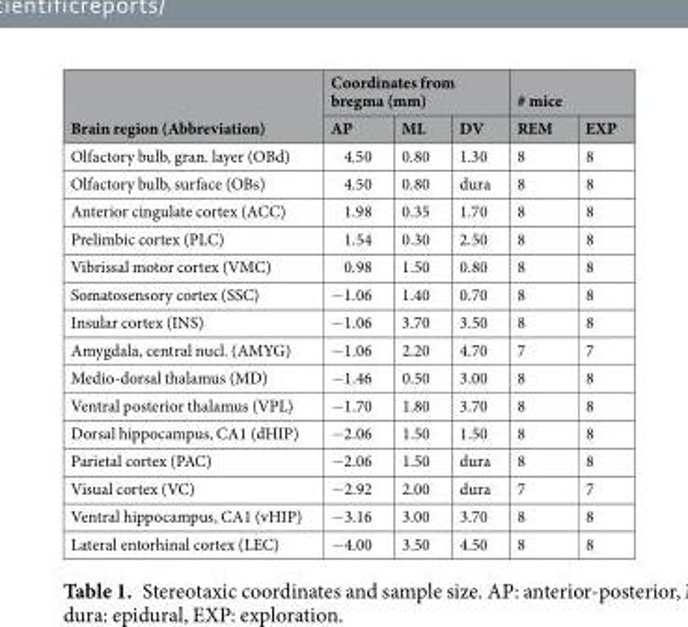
<table><thead><tr><td rowspan="2">Brain region (Abbreviation)</td><td colspan="3">Coordinates from bregma (mm)</td><td colspan="2"># mice</td></tr><tr><td>AP</td><td>ML</td><td>DV</td><td>REM</td><td>EXP</td></tr></thead><tbody><tr><td>Olfactory bulb, gran. layer (OBd)</td><td>4.50</td><td>0.80</td><td>1.30</td><td>8</td><td>8</td></tr><tr><td>Olfactory bulb, surface (OBs)</td><td>4.50</td><td>0.80</td><td>dura</td><td>8</td><td>8</td></tr><tr><td>Anterior cingulate cortex (ACC)</td><td>1.98</td><td>0.35</td><td>1.70</td><td>8</td><td>8</td></tr><tr><td>Prelimbic cortex (PLC)</td><td>1.54</td><td>0.30</td><td>2.50</td><td>8</td><td>8</td></tr><tr><td>Vibrissal motor cortex (VMC)</td><td>0.98</td><td>1.50</td><td>0.80</td><td>8</td><td>8</td></tr><tr><td>Somatosensory cortex (SSC)</td><td>−1.06</td><td>1.40</td><td>0.70</td><td>8</td><td>8</td></tr><tr><td>Insular cortex (INS)</td><td>−1.06</td><td>3.70</td><td>3.50</td><td>8</td><td>8</td></tr><tr><td>Amygdala, central nucl. (AMYG)</td><td>−1.06</td><td>2.20</td><td>4.70</td><td>7</td><td>7</td></tr><tr><td>Medio-dorsal thalamus (MD)</td><td>−1.46</td><td>0.50</td><td>3.00</td><td>8</td><td>8</td></tr><tr><td>Ventral posterior thalamus (VPL)</td><td>−1.70</td><td>1.80</td><td>3.70</td><td>8</td><td>8</td></tr><tr><td>Dorsal hippocampus, CA1 (dHIP)</td><td>−2.06</td><td>1.50</td><td>1.50</td><td>8</td><td>8</td></tr><tr><td>Parietal cortex (PAC)</td><td>−2.06</td><td>1.50</td><td>dura</td><td>8</td><td>8</td></tr><tr><td>Visual cortex (VC)</td><td>−2.92</td><td>2.00</td><td>dura</td><td>7</td><td>7</td></tr><tr><td>Ventral hippocampus, CA1 (vHIP)</td><td>−3.16</td><td>3.00</td><td>3.70</td><td>8</td><td>8</td></tr><tr><td>Lateral entorhinal cortex (LEC)</td><td>−4.00</td><td>3.50</td><td>4.50</td><td>8</td><td>8</td></tr></tbody></table>